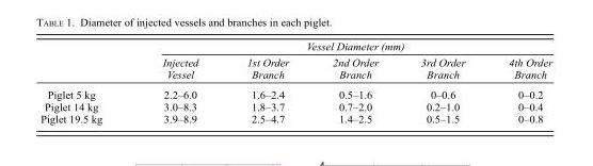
<table><thead><tr><td rowspan="2"></td><td colspan="5">Vessel Diameter (mm)</td></tr><tr><td>Injected Vessel</td><td>1st Order Branch</td><td>2nd Order Branch</td><td>3rd Order Branch</td><td>4th Order Branch</td></tr></thead><tbody><tr><td>Piglet 5 kg</td><td>2.2–6.0</td><td>1.6–2.4</td><td>0.5–1.6</td><td>0–0.6</td><td>0–0.2</td></tr><tr><td>Piglet 14 kg</td><td>3.0–8.3</td><td>1.8–3.7</td><td>0.7–2.0</td><td>0.2–1.0</td><td>0–0.4</td></tr><tr><td>Piglet 19.5 kg</td><td>3.9–8.9</td><td>2.5–4.7</td><td>1.4–2.5</td><td>0.5–1.5</td><td>0–0.8</td></tr></tbody></table>